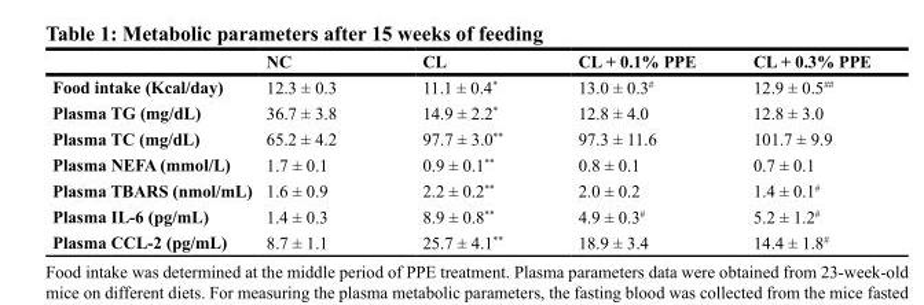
<table><thead><tr><td></td><td>NC</td><td>CL</td><td>CL + 0.1% PPE</td><td>CL + 0.3% PPE</td></tr></thead><tbody><tr><td>Food intake (Kcal/day)</td><td>12.3 ± 0.3</td><td>11.1 ± 0.4*</td><td>13.0 ± 0.3<sup>#</sup></td><td>12.9 ± 0.5<sup>##</sup></td></tr><tr><td>Plasma TG (mg/dL)</td><td>36.7 ± 3.8</td><td>14.9 ± 2.2*</td><td>12.8 ± 4.0</td><td>12.8 ± 3.0</td></tr><tr><td>Plasma TC (mg/dL)</td><td>65.2 ± 4.2</td><td>97.7 ± 3.0**</td><td>97.3 ± 11.6</td><td>101.7 ± 9.9</td></tr><tr><td>Plasma NEFA (mmol/L)</td><td>1.7 ± 0.1</td><td>0.9 ± 0.1**</td><td>0.8 ± 0.1</td><td>0.7 ± 0.1</td></tr><tr><td>Plasma TBARS (nmol/mL)</td><td>1.6 ± 0.9</td><td>2.2 ± 0.2**</td><td>2.0 ± 0.2</td><td>1.4 ± 0.1<sup>#</sup></td></tr><tr><td>Plasma IL-6 (pg/mL)</td><td>1.4 ± 0.3</td><td>8.9 ± 0.8**</td><td>4.9 ± 0.3<sup>#</sup></td><td>5.2 ± 1.2<sup>#</sup></td></tr><tr><td>Plasma CCL-2 (pg/mL)</td><td>8.7 ± 1.1</td><td>25.7 ± 4.1**</td><td>18.9 ± 3.4</td><td>14.4 ± 1.8<sup>#</sup></td></tr></tbody></table>